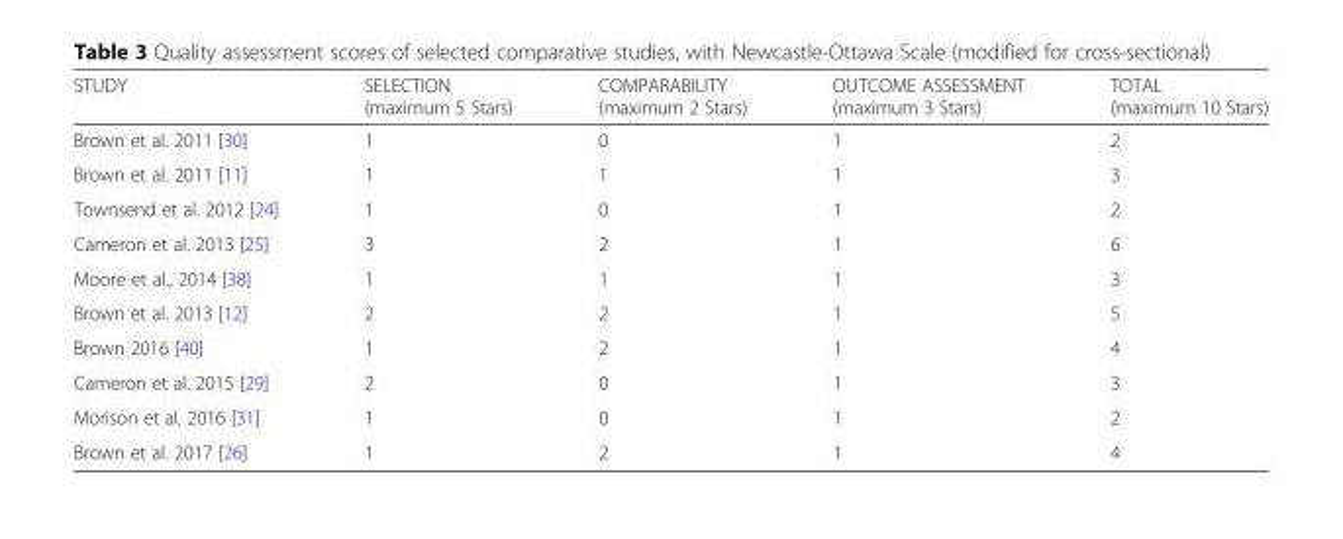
<table><thead><tr><td>STUDY</td><td>SELECTION (maximum 5 Stars)</td><td>COMPARABILITY (maximum 2 Stars)</td><td>OUTCOME ASSESSMENT (maximum 3 Stars)</td><td>TOTAL (maximum 10 Stars)</td></tr></thead><tbody><tr><td>Brown et al. 2011 [30]</td><td>1</td><td>0</td><td>1</td><td>2</td></tr><tr><td>Brown et al. 2011 [11]</td><td>1</td><td>1</td><td>1</td><td>3</td></tr><tr><td>Townsend et al. 2012 [24]</td><td>1</td><td>0</td><td>1</td><td>2</td></tr><tr><td>Cameron et al. 2013 [25]</td><td>3</td><td>2</td><td>1</td><td>6</td></tr><tr><td>Moore et al., 2014 [38]</td><td>1</td><td>1</td><td>1</td><td>3</td></tr><tr><td>Brown et al. 2013 [12]</td><td>2</td><td>2</td><td>1</td><td>5</td></tr><tr><td>Brown 2016 [40]</td><td>1</td><td>2</td><td>1</td><td>4</td></tr><tr><td>Cameron et al. 2015 [29]</td><td>2</td><td>0</td><td>1</td><td>3</td></tr><tr><td>Morison et al. 2016 [31]</td><td>1</td><td>0</td><td>1</td><td>2</td></tr><tr><td>Brown et al. 2017 [26]</td><td>1</td><td>2</td><td>1</td><td>4</td></tr></tbody></table>